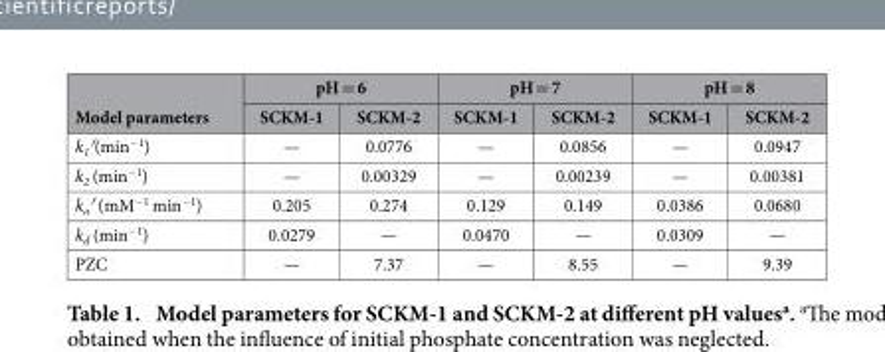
<table><thead><tr><td rowspan="2">Model parameters</td><td colspan="2">pH = 6</td><td colspan="2">pH = 7</td><td colspan="2">pH = 8</td></tr><tr><td>SCKM-1</td><td>SCKM-2</td><td>SCKM-1</td><td>SCKM-2</td><td>SCKM-1</td><td>SCKM-2</td></tr></thead><tbody><tr><td>k<sub>1</sub>′(min<sup>−1</sup>)</td><td>—</td><td>0.0776</td><td>—</td><td>0.0856</td><td>—</td><td>0.0947</td></tr><tr><td>k<sub>2</sub> (min<sup>−1</sup>)</td><td>—</td><td>0.00329</td><td>—</td><td>0.00239</td><td>—</td><td>0.00381</td></tr><tr><td>k<sub>a</sub>′ (mM<sup>−1</sup> min<sup>−1</sup>)</td><td>0.205</td><td>0.274</td><td>0.129</td><td>0.149</td><td>0.0386</td><td>0.0680</td></tr><tr><td>k<sub>d</sub> (min<sup>−1</sup>)</td><td>0.0279</td><td>—</td><td>0.0470</td><td>—</td><td>0.0309</td><td>—</td></tr><tr><td>PZC</td><td>—</td><td>7.37</td><td>—</td><td>8.55</td><td>—</td><td>9.39</td></tr></tbody></table>